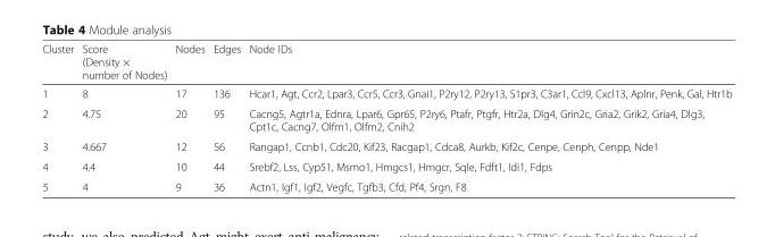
<table><thead><tr><td>Cluster</td><td>Score (Density × number of Nodes)</td><td>Nodes</td><td>Edges</td><td>Node IDs</td></tr></thead><tbody><tr><td>1</td><td>8</td><td>17</td><td>136</td><td>Hcar1, Agt, Ccr2, Lpar3, Ccr5, Ccr3, Gnai1, P2ry12, P2ry13, S1pr3, C3ar1, Ccl9, Cxcl13, Aplnr, Penk, Gal, Htr1b</td></tr><tr><td>2</td><td>4.75</td><td>20</td><td>95</td><td>Cacng5, Agtr1a, Ednra, Lpar6, Gpr65, P2ry6, Ptafr, Ptgfr, Htr2a, Dlg4, Grin2c, Gria2, Grik2, Gria4, Dlg3, Cpt1c, Cacng7, Olfm1, Olfm2, Cnih2</td></tr><tr><td>3</td><td>4.667</td><td>12</td><td>56</td><td>Rangap1, Ccnb1, Cdc20, Kif23, Racgap1, Cdca8, Aurkb, Kif2c, Cenpe, Cenph, Cenpp, Nde1</td></tr><tr><td>4</td><td>4.4</td><td>10</td><td>44</td><td>Srebf2, Lss, Cyp51, Msmo1, Hmgcs1, Hmgcr, Sqle, Fdft1, Idi1, Fdps</td></tr><tr><td>5</td><td>4</td><td>9</td><td>36</td><td>Actn1, Igf1, Igf2, Vegfc, Tgfb3, Cfd, Pf4, Srgn, F8</td></tr></tbody></table>